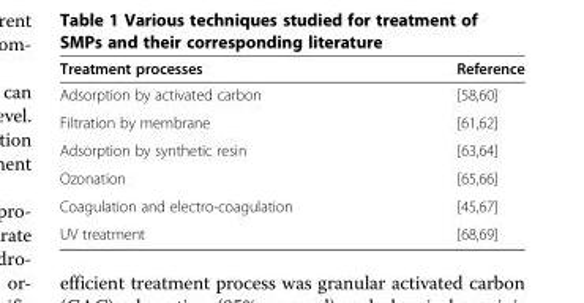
<table><thead><tr><td>Treatment processes</td><td>Reference</td></tr></thead><tbody><tr><td>Adsorption by activated carbon</td><td>[58,60]</td></tr><tr><td>Filtration by membrane</td><td>[61,62]</td></tr><tr><td>Adsorption by synthetic resin</td><td>[63,64]</td></tr><tr><td>Ozonation</td><td>[65,66]</td></tr><tr><td>Coagulation and electro-coagulation</td><td>[45,67]</td></tr><tr><td>UV treatment</td><td>[68,69]</td></tr></tbody></table>